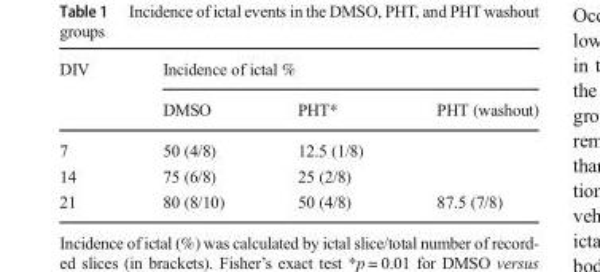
<table><thead><tr><td rowspan="2">DIV</td><td colspan="3">Incidence of ictal %</td></tr><tr><td>DMSO</td><td>PHT*</td><td>PHT (washout)</td></tr></thead><tbody><tr><td>7</td><td>50 (4/8)</td><td>12.5 (1/8)</td><td></td></tr><tr><td>14</td><td>75 (6/8)</td><td>25 (2/8)</td><td></td></tr><tr><td>21</td><td>80 (8/10)</td><td>50 (4/8)</td><td>87.5 (7/8)</td></tr></tbody></table>